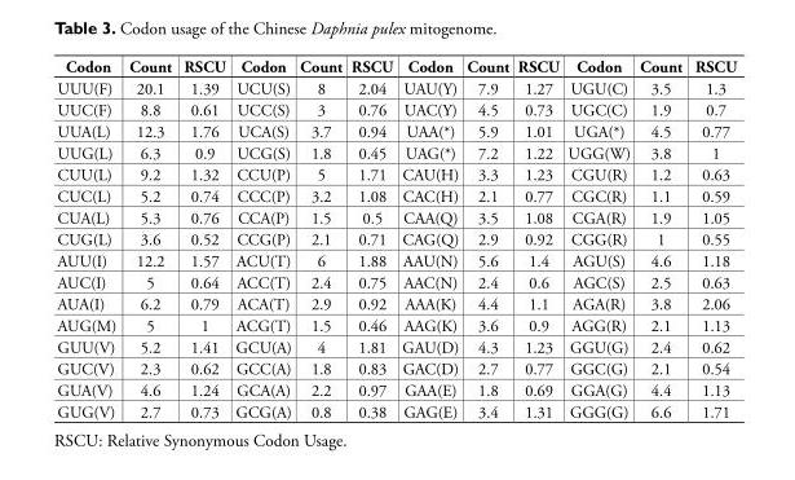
<table><thead><tr><td>Codon</td><td>Count</td><td>RSCU</td><td>Codon</td><td>Count</td><td>RSCU</td><td>Codon</td><td>Count</td><td>RSCU</td><td>Codon</td><td>Count</td><td>RSCU</td></tr></thead><tbody><tr><td>UUU(F)</td><td>20.1</td><td>1.39</td><td>UCU(S)</td><td>8</td><td>2.04</td><td>UAU(Y)</td><td>7.9</td><td>1.27</td><td>UGU(C)</td><td>3.5</td><td>1.3</td></tr><tr><td>UUC(F)</td><td>8.8</td><td>0.61</td><td>UCC(S)</td><td>3</td><td>0.76</td><td>UAC(Y)</td><td>4.5</td><td>0.73</td><td>UGC(C)</td><td>1.9</td><td>0.7</td></tr><tr><td>UUA(L)</td><td>12.3</td><td>1.76</td><td>UCA(S)</td><td>3.7</td><td>0.94</td><td>UAA(*)</td><td>5.9</td><td>1.01</td><td>UGA(*)</td><td>4.5</td><td>0.77</td></tr><tr><td>UUG(L)</td><td>6.3</td><td>0.9</td><td>UCG(S)</td><td>1.8</td><td>0.45</td><td>UAG(*)</td><td>7.2</td><td>1.22</td><td>UGG(W)</td><td>3.8</td><td>1</td></tr><tr><td>CUU(L)</td><td>9.2</td><td>1.32</td><td>CCU(P)</td><td>5</td><td>1.71</td><td>CAU(H)</td><td>3.3</td><td>1.23</td><td>CGU(R)</td><td>1.2</td><td>0.63</td></tr><tr><td>CUC(L)</td><td>5.2</td><td>0.74</td><td>CCC(P)</td><td>3.2</td><td>1.08</td><td>CAC(H)</td><td>2.1</td><td>0.77</td><td>CGC(R)</td><td>1.1</td><td>0.59</td></tr><tr><td>CUA(L)</td><td>5.3</td><td>0.76</td><td>CCA(P)</td><td>1.5</td><td>0.5</td><td>CAA(Q)</td><td>3.5</td><td>1.08</td><td>CGA(R)</td><td>1.9</td><td>1.05</td></tr><tr><td>CUG(L)</td><td>3.6</td><td>0.52</td><td>CCG(P)</td><td>2.1</td><td>0.71</td><td>CAG(Q)</td><td>2.9</td><td>0.92</td><td>CGG(R)</td><td>1</td><td>0.55</td></tr><tr><td>AUU(I)</td><td>12.2</td><td>1.57</td><td>ACU(T)</td><td>6</td><td>1.88</td><td>AAU(N)</td><td>5.6</td><td>1.4</td><td>AGU(S)</td><td>4.6</td><td>1.18</td></tr><tr><td>AUC(I)</td><td>5</td><td>0.64</td><td>ACC(T)</td><td>2.4</td><td>0.75</td><td>AAC(N)</td><td>2.4</td><td>0.6</td><td>AGC(S)</td><td>2.5</td><td>0.63</td></tr><tr><td>AUA(I)</td><td>6.2</td><td>0.79</td><td>ACA(T)</td><td>2.9</td><td>0.92</td><td>AAA(K)</td><td>4.4</td><td>1.1</td><td>AGA(R)</td><td>3.8</td><td>2.06</td></tr><tr><td>AUG(M)</td><td>5</td><td>1</td><td>ACG(T)</td><td>1.5</td><td>0.46</td><td>AAG(K)</td><td>3.6</td><td>0.9</td><td>AGG(R)</td><td>2.1</td><td>1.13</td></tr><tr><td>GUU(V)</td><td>5.2</td><td>1.41</td><td>GCU(A)</td><td>4</td><td>1.81</td><td>GAU(D)</td><td>4.3</td><td>1.23</td><td>GGU(G)</td><td>2.4</td><td>0.62</td></tr><tr><td>GUC(V)</td><td>2.3</td><td>0.62</td><td>GCC(A)</td><td>1.8</td><td>0.83</td><td>GAC(D)</td><td>2.7</td><td>0.77</td><td>GGC(G)</td><td>2.1</td><td>0.54</td></tr><tr><td>GUA(V)</td><td>4.6</td><td>1.24</td><td>GCA(A)</td><td>2.2</td><td>0.97</td><td>GAA(E)</td><td>1.8</td><td>0.69</td><td>GGA(G)</td><td>4.4</td><td>1.13</td></tr><tr><td>GUG(V)</td><td>2.7</td><td>0.73</td><td>GCG(A)</td><td>0.8</td><td>0.38</td><td>GAG(E)</td><td>3.4</td><td>1.31</td><td>GGG(G)</td><td>6.6</td><td>1.71</td></tr></tbody></table>